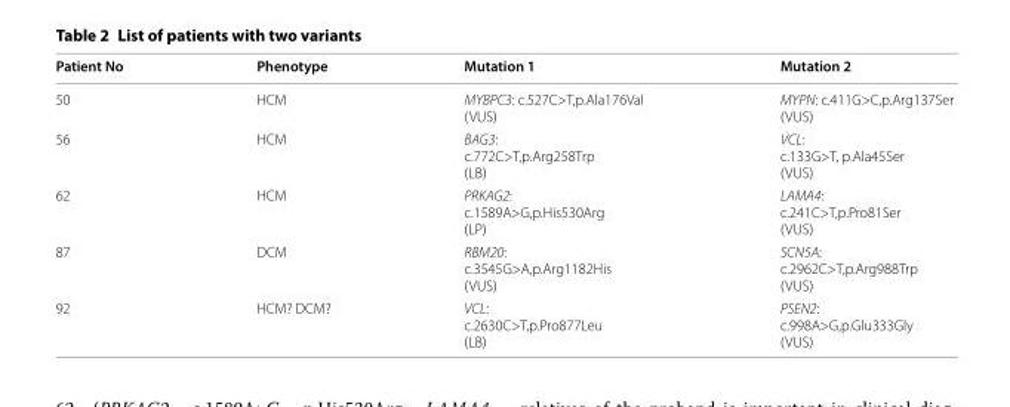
<table><thead><tr><td>Patient No</td><td>Phenotype</td><td>Mutation 1</td><td>Mutation 2</td></tr></thead><tbody><tr><td>50</td><td>HCM</td><td>MYBPC3: c.527C&gt;T,p.Ala176Val (VUS)</td><td>MYPN: c.411G&gt;C,p.Arg137Ser (VUS)</td></tr><tr><td>56</td><td>HCM</td><td>BAG3: c.772C&gt;T,p.Arg258Trp (LB)</td><td>VCL: c.133G&gt;T, p.Ala45Ser (VUS)</td></tr><tr><td>62</td><td>HCM</td><td>PRKAG2: c.1589A&gt;G,p.His530Arg (LP)</td><td>LAMA4: c.241C&gt;T,p.Pro81Ser (VUS)</td></tr><tr><td>87</td><td>DCM</td><td>RBM20: c.3545G&gt;A,p.Arg1182His (VUS)</td><td>SCN5A: c.2962C&gt;T,p.Arg988Trp (VUS)</td></tr><tr><td>92</td><td>HCM? DCM?</td><td>VCL: c.2630C&gt;T,p.Pro877Leu (LB)</td><td>PSEN2: c.998A&gt;G,p.Glu333Gly (VUS)</td></tr></tbody></table>